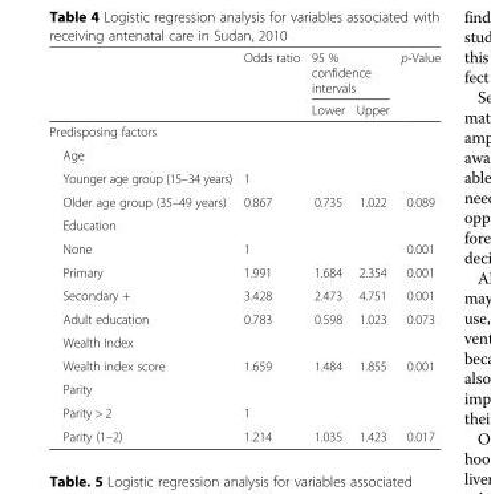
<table><thead><tr><td rowspan="2"></td><td rowspan="2">Odds ratio</td><td colspan="2">95 % confidence intervals</td><td rowspan="2">p-Value</td></tr><tr><td>Lower</td><td>Upper</td></tr></thead><tbody><tr><td colspan="5">Predisposing factors</td></tr><tr><td colspan="5">Age</td></tr><tr><td>Younger age group (15–34 years)</td><td>1</td><td></td><td></td><td></td></tr><tr><td>Older age group (35–49 years)</td><td>0.867</td><td>0.735</td><td>1.022</td><td>0.089</td></tr><tr><td colspan="5">Education</td></tr><tr><td>None</td><td>1</td><td></td><td></td><td>0.001</td></tr><tr><td>Primary</td><td>1.991</td><td>1.684</td><td>2.354</td><td>0.001</td></tr><tr><td>Secondary +</td><td>3.428</td><td>2.473</td><td>4.751</td><td>0.001</td></tr><tr><td>Adult education</td><td>0.783</td><td>0.598</td><td>1.023</td><td>0.073</td></tr><tr><td colspan="5">Wealth Index</td></tr><tr><td>Wealth index score</td><td>1.659</td><td>1.484</td><td>1.855</td><td>0.001</td></tr><tr><td colspan="5">Parity</td></tr><tr><td>Parity &gt; 2</td><td>1</td><td></td><td></td><td></td></tr><tr><td>Parity (1–2)</td><td>1.214</td><td>1.035</td><td>1.423</td><td>0.017</td></tr></tbody></table>